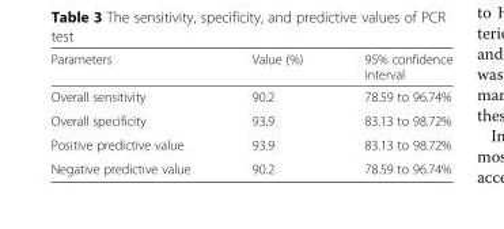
<table><thead><tr><td>Parameters</td><td>Value (%)</td><td>95% confidence interval</td></tr></thead><tbody><tr><td>Overall sensitivity</td><td>90.2</td><td>78.59 to 96.74%</td></tr><tr><td>Overall specificity</td><td>93.9</td><td>83.13 to 98.72%</td></tr><tr><td>Positive predictive value</td><td>93.9</td><td>83.13 to 98.72%</td></tr><tr><td>Negative predictive value</td><td>90.2</td><td>78.59 to 96.74%</td></tr></tbody></table>